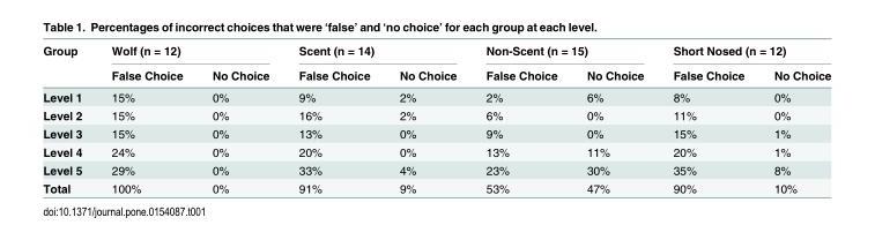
<table><thead><tr><td rowspan="2">Group</td><td colspan="2">Wolf (n = 12)</td><td colspan="2">Scent (n = 14)</td><td colspan="2">Non-Scent (n = 15)</td><td colspan="2">Short Nosed (n = 12)</td></tr><tr><td>False Choice</td><td>No Choice</td><td>False Choice</td><td>No Choice</td><td>False Choice</td><td>No Choice</td><td>False Choice</td><td>No Choice</td></tr></thead><tbody><tr><td>Level 1</td><td>15%</td><td>0%</td><td>9%</td><td>2%</td><td>2%</td><td>6%</td><td>8%</td><td>0%</td></tr><tr><td>Level 2</td><td>15%</td><td>0%</td><td>16%</td><td>2%</td><td>6%</td><td>0%</td><td>11%</td><td>0%</td></tr><tr><td>Level 3</td><td>15%</td><td>0%</td><td>13%</td><td>0%</td><td>9%</td><td>0%</td><td>15%</td><td>1%</td></tr><tr><td>Level 4</td><td>24%</td><td>0%</td><td>20%</td><td>0%</td><td>13%</td><td>11%</td><td>20%</td><td>1%</td></tr><tr><td>Level 5</td><td>29%</td><td>0%</td><td>33%</td><td>4%</td><td>23%</td><td>30%</td><td>35%</td><td>8%</td></tr><tr><td>Total</td><td>100%</td><td>0%</td><td>91%</td><td>9%</td><td>53%</td><td>47%</td><td>90%</td><td>10%</td></tr></tbody></table>